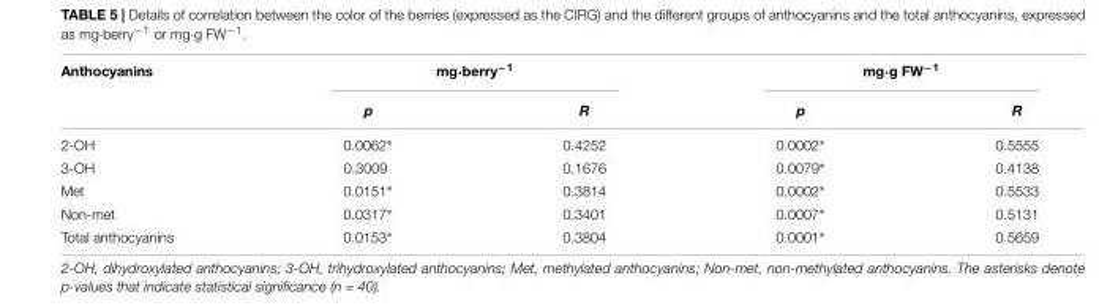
<table><thead><tr><td rowspan="2">Anthocyanins</td><td colspan="2">mg·berry−1</td><td colspan="2">mg·g FW−1</td></tr><tr><td>p</td><td>R</td><td>p</td><td>R</td></tr></thead><tbody><tr><td>2-OH</td><td>0.0062∗</td><td>0.4252</td><td>0.0002∗</td><td>0.5555</td></tr><tr><td>3-OH</td><td>0.3009</td><td>0.1676</td><td>0.0079∗</td><td>0.4138</td></tr><tr><td>Met</td><td>0.0151∗</td><td>0.3814</td><td>0.0002∗</td><td>0.5533</td></tr><tr><td>Non-met</td><td>0.0317∗</td><td>0.3401</td><td>0.0007∗</td><td>0.5131</td></tr><tr><td>Total anthocyanins</td><td>0.0153∗</td><td>0.3804</td><td>0.0001∗</td><td>0.5659</td></tr></tbody></table>